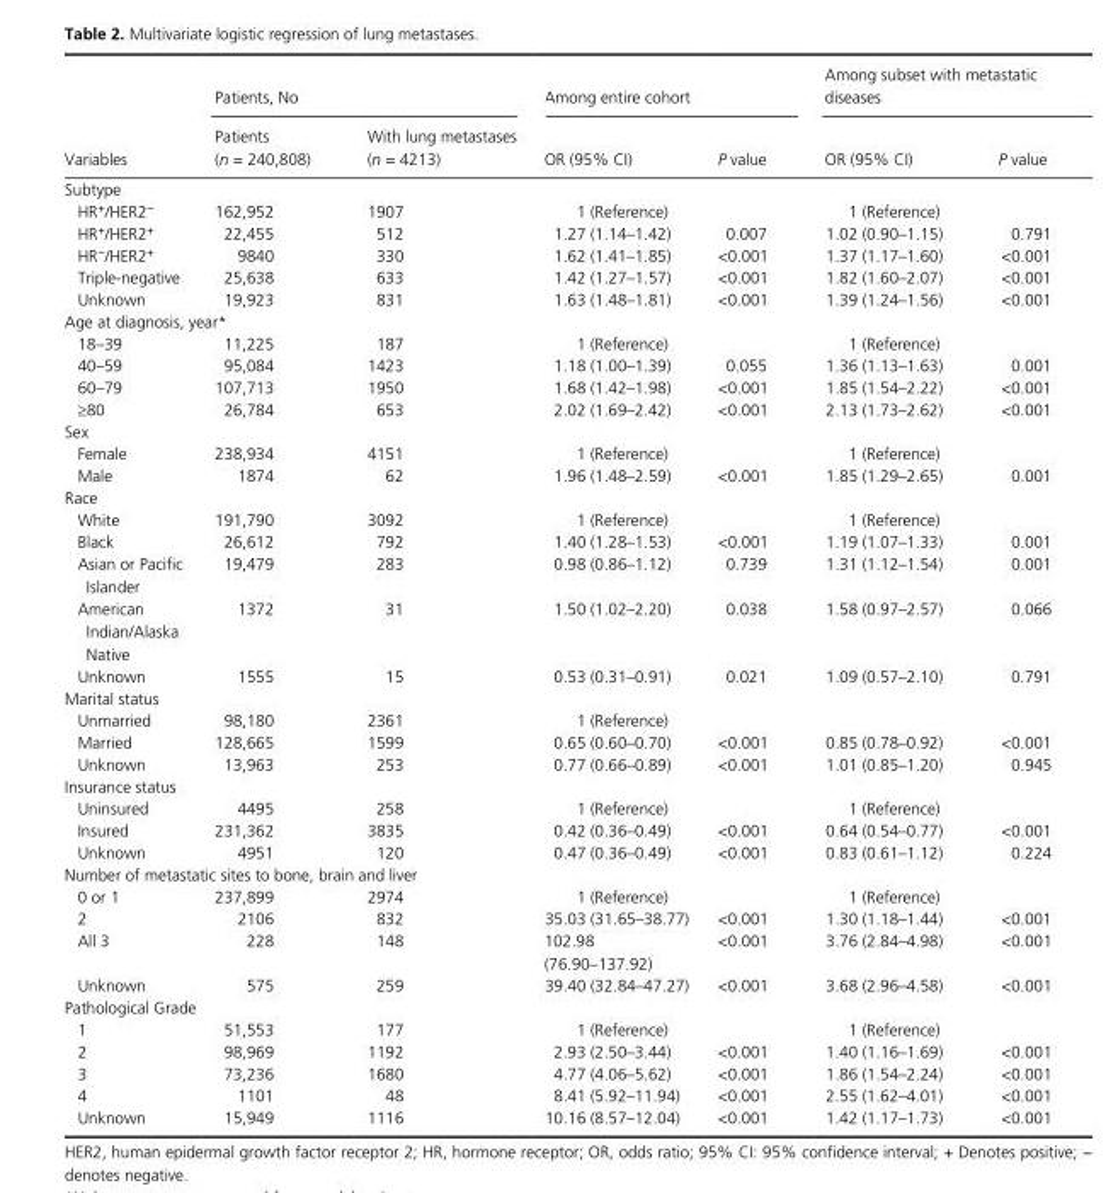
<table><thead><tr><td rowspan="2">Variables</td><td colspan="2">Patients, No</td><td colspan="2">Among entire cohort</td><td colspan="2">Among subset with metastatic diseases</td></tr><tr><td>Patients (n = 240,808)</td><td>With lung metastases (n = 4213)</td><td>OR (95% CI)</td><td>P value</td><td>OR (95% CI)</td><td>P value</td></tr></thead><tbody><tr><td colspan="7">Subtype</td></tr><tr><td>HR<sup>+</sup>/HER2<sup>−</sup></td><td>162,952</td><td>1907</td><td>1 (Reference)</td><td></td><td>1 (Reference)</td><td></td></tr><tr><td>HR<sup>+</sup>/HER2<sup>+</sup></td><td>22,455</td><td>512</td><td>1.27 (1.14–1.42)</td><td>0.007</td><td>1.02 (0.90–1.15)</td><td>0.791</td></tr><tr><td>HR<sup>−</sup>/HER2<sup>+</sup></td><td>9840</td><td>330</td><td>1.62 (1.41–1.85)</td><td>&lt;0.001</td><td>1.37 (1.17–1.60)</td><td>&lt;0.001</td></tr><tr><td>Triple- negative</td><td>25,638</td><td>633</td><td>1.42 (1.27–1.57)</td><td>&lt;0.001</td><td>1.82 (1.60–2.07)</td><td>&lt;0.001</td></tr><tr><td>Unknown</td><td>19,923</td><td>831</td><td>1.63 (1.48–1.81)</td><td>&lt;0.001</td><td>1.39 (1.24–1.56)</td><td>&lt;0.001</td></tr><tr><td colspan="7">Age at diagnosis, year*</td></tr><tr><td>18–39</td><td>11,225</td><td>187</td><td>1 (Reference)</td><td></td><td>1 (Reference)</td><td></td></tr><tr><td>40–59</td><td>95,084</td><td>1423</td><td>1.18 (1.00–1.39)</td><td>0.055</td><td>1.36 (1.13–1.63)</td><td>0.001</td></tr><tr><td>60–79</td><td>107,713</td><td>1950</td><td>1.68 (1.42–1.98)</td><td>&lt;0.001</td><td>1.85 (1.54–2.22)</td><td>&lt;0.001</td></tr><tr><td>≥80</td><td>26,784</td><td>653</td><td>2.02 (1.69–2.42)</td><td>&lt;0.001</td><td>2.13 (1.73–2.62)</td><td>&lt;0.001</td></tr><tr><td colspan="7">Sex</td></tr><tr><td>Female</td><td>238,934</td><td>4151</td><td>1 (Reference)</td><td></td><td>1 (Reference)</td><td></td></tr><tr><td>Male</td><td>1874</td><td>62</td><td>1.96 (1.48–2.59)</td><td>&lt;0.001</td><td>1.85 (1.29–2.65)</td><td>0.001</td></tr><tr><td colspan="7">Race</td></tr><tr><td>White</td><td>191,790</td><td>3092</td><td>1 (Reference)</td><td></td><td>1 (Reference)</td><td></td></tr><tr><td>Black</td><td>26,612</td><td>792</td><td>1.40 (1.28–1.53)</td><td>&lt;0.001</td><td>1.19 (1.07–1.33)</td><td>0.001</td></tr><tr><td>Asian or Pacific Islander</td><td>19,479</td><td>283</td><td>0.98 (0.86–1.12)</td><td>0.739</td><td>1.31 (1.12–1.54)</td><td>0.001</td></tr><tr><td>American Indian/Alaska Native</td><td>1372</td><td>31</td><td>1.50 (1.02–2.20)</td><td>0.038</td><td>1.58 (0.97–2.57)</td><td>0.066</td></tr><tr><td>Unknown</td><td>1555</td><td>15</td><td>0.53 (0.31–0.91)</td><td>0.021</td><td>1.09 (0.57–2.10)</td><td>0.791</td></tr><tr><td colspan="7">Marital status</td></tr><tr><td>Unmarried</td><td>98,180</td><td>2361</td><td>1 (Reference)</td><td></td><td></td><td></td></tr><tr><td>Married</td><td>128,665</td><td>1599</td><td>0.65 (0.60–0.70)</td><td>&lt;0.001</td><td>0.85 (0.78–0.92)</td><td>&lt;0.001</td></tr><tr><td>Unknown</td><td>13,963</td><td>253</td><td>0.77 (0.66–0.89)</td><td>&lt;0.001</td><td>1.01 (0.85–1.20)</td><td>0.945</td></tr><tr><td colspan="7">Insurance status</td></tr><tr><td>Uninsured</td><td>4495</td><td>258</td><td>1 (Reference)</td><td></td><td>1 (Reference)</td><td></td></tr><tr><td>Insured</td><td>231,362</td><td>3835</td><td>0.42 (0.36–0.49)</td><td>&lt;0.001</td><td>0.64 (0.54–0.77)</td><td>&lt;0.001</td></tr><tr><td>Unknown</td><td>4951</td><td>120</td><td>0.47 (0.36–0.49)</td><td>&lt;0.001</td><td>0.83 (0.61–1.12)</td><td>0.224</td></tr><tr><td colspan="7">Number of metastatic sites to bone, brain and liver</td></tr><tr><td>0 or 1</td><td>237,899</td><td>2974</td><td>1 (Reference)</td><td></td><td>1 (Reference)</td><td></td></tr><tr><td>2</td><td>2106</td><td>832</td><td>35.03 (31.65–38.77)</td><td>&lt;0.001</td><td>1.30 (1.18–1.44)</td><td>&lt;0.001</td></tr><tr><td>All 3</td><td>228</td><td>148</td><td>102.98 (76.90–137.92)</td><td>&lt;0.001</td><td>3.76 (2.84–4.98)</td><td>&lt;0.001</td></tr><tr><td>Unknown</td><td>575</td><td>259</td><td>39.40 (32.84–47.27)</td><td>&lt;0.001</td><td>3.68 (2.96–4.58)</td><td>&lt;0.001</td></tr><tr><td colspan="7">Pathological Grade</td></tr><tr><td>1</td><td>51,553</td><td>177</td><td>1 (Reference)</td><td></td><td>1 (Reference)</td><td></td></tr><tr><td>2</td><td>98,969</td><td>1192</td><td>2.93 (2.50–3.44)</td><td>&lt;0.001</td><td>1.40 (1.16–1.69)</td><td>&lt;0.001</td></tr><tr><td>3</td><td>73,236</td><td>1680</td><td>4.77 (4.06–5.62)</td><td>&lt;0.001</td><td>1.86 (1.54–2.24)</td><td>&lt;0.001</td></tr><tr><td>4</td><td>1101</td><td>48</td><td>8.41 (5.92–11.94)</td><td>&lt;0.001</td><td>2.55 (1.62–4.01)</td><td>&lt;0.001</td></tr><tr><td>Unknown</td><td>15,949</td><td>1116</td><td>10.16 (8.57–12.04)</td><td>&lt;0.001</td><td>1.42 (1.17–1.73)</td><td>&lt;0.001</td></tr></tbody></table>